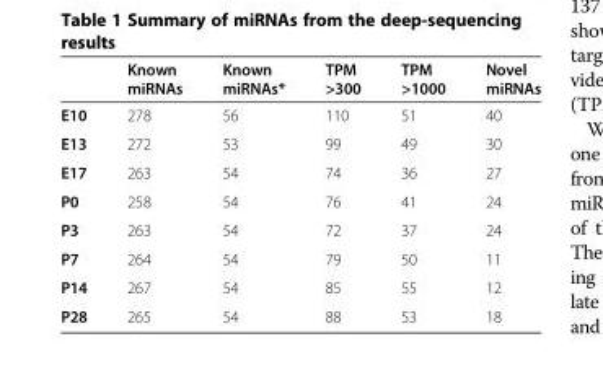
<table><thead><tr><td></td><td>Known miRNAs</td><td>Known miRNAs*</td><td>TPM &gt;300</td><td>TPM &gt;1000</td><td>Novel miRNAs</td></tr></thead><tbody><tr><td>E10</td><td>278</td><td>56</td><td>110</td><td>51</td><td>40</td></tr><tr><td>E13</td><td>272</td><td>53</td><td>99</td><td>49</td><td>30</td></tr><tr><td>E17</td><td>263</td><td>54</td><td>74</td><td>36</td><td>27</td></tr><tr><td>P0</td><td>258</td><td>54</td><td>76</td><td>41</td><td>24</td></tr><tr><td>P3</td><td>263</td><td>54</td><td>72</td><td>37</td><td>24</td></tr><tr><td>P7</td><td>264</td><td>54</td><td>79</td><td>50</td><td>11</td></tr><tr><td>P14</td><td>267</td><td>54</td><td>85</td><td>55</td><td>12</td></tr><tr><td>P28</td><td>265</td><td>54</td><td>88</td><td>53</td><td>18</td></tr></tbody></table>